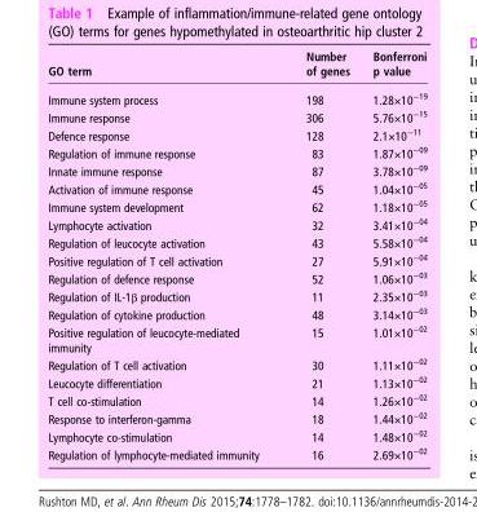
<table><thead><tr><td>GO term</td><td>Number of genes</td><td>Bonferroni p value</td></tr></thead><tbody><tr><td>Immune system process</td><td>198</td><td>1.28×10<sup>−19</sup></td></tr><tr><td>Immune response</td><td>306</td><td>5.76×10<sup>−15</sup></td></tr><tr><td>Defence response</td><td>128</td><td>2.1×10<sup>−11</sup></td></tr><tr><td>Regulation of immune response</td><td>83</td><td>1.87×10<sup>−09</sup></td></tr><tr><td>Innate immune response</td><td>87</td><td>3.78×10<sup>−09</sup></td></tr><tr><td>Activation of immune response</td><td>45</td><td>1.04×10<sup>−05</sup></td></tr><tr><td>Immune system development</td><td>62</td><td>1.18×10<sup>−05</sup></td></tr><tr><td>Lymphocyte activation</td><td>32</td><td>3.41×10<sup>−04</sup></td></tr><tr><td>Regulation of leucocyte activation</td><td>43</td><td>5.58×10<sup>−04</sup></td></tr><tr><td>Positive regulation of T cell activation</td><td>27</td><td>5.91×10<sup>−04</sup></td></tr><tr><td>Regulation of defence response</td><td>52</td><td>1.06×10<sup>−03</sup></td></tr><tr><td>Regulation of IL-1β production</td><td>11</td><td>2.35×10<sup>−03</sup></td></tr><tr><td>Regulation of cytokine production</td><td>48</td><td>3.14×10<sup>−03</sup></td></tr><tr><td>Positive regulation of leucocyte-mediated immunity</td><td>15</td><td>1.01×10<sup>−02</sup></td></tr><tr><td>Regulation of T cell activation</td><td>30</td><td>1.11×10<sup>−02</sup></td></tr><tr><td>Leucocyte differentiation</td><td>21</td><td>1.13×10<sup>−02</sup></td></tr><tr><td>T cell co-stimulation</td><td>14</td><td>1.26×10<sup>−02</sup></td></tr><tr><td>Response to interferon-gamma</td><td>18</td><td>1.44×10<sup>−02</sup></td></tr><tr><td>Lymphocyte co-stimulation</td><td>14</td><td>1.48×10<sup>−02</sup></td></tr><tr><td>Regulation of lymphocyte-mediated immunity</td><td>16</td><td>2.69×10<sup>−02</sup></td></tr></tbody></table>